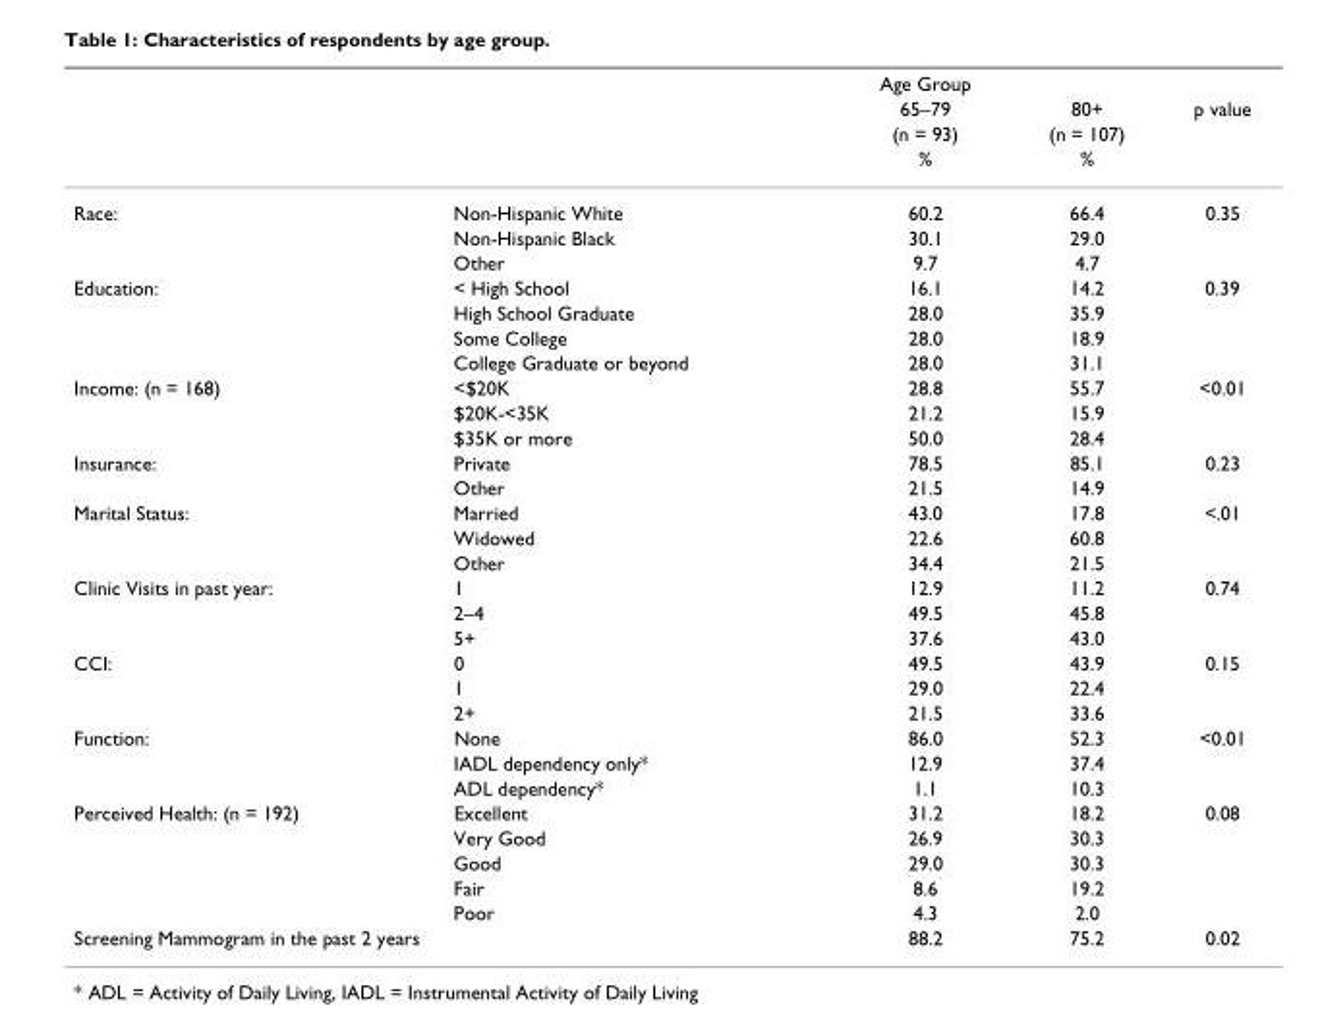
<table><thead><tr><td rowspan="4"></td><td rowspan="4"></td><td rowspan="4">Age Group 65–79 (n = 93) %</td><td rowspan="4">80+ (n = 107) %</td><td rowspan="4">p value</td></tr><tr></tr><tr></tr><tr></tr></thead><tbody><tr><td rowspan="3">Race:</td><td>Non-Hispanic White</td><td>60.2</td><td>66.4</td><td>0.35</td></tr><tr><td>Non-Hispanic Black</td><td>30.1</td><td>29.0</td><td></td></tr><tr><td>Other</td><td>9.7</td><td>4.7</td><td></td></tr><tr><td rowspan="4">Education:</td><td>&lt; High School</td><td>16.1</td><td>14.2</td><td>0.39</td></tr><tr><td>High School Graduate</td><td>28.0</td><td>35.9</td><td></td></tr><tr><td>Some College</td><td>28.0</td><td>18.9</td><td></td></tr><tr><td>College Graduate or beyond</td><td>28.0</td><td>31.1</td><td></td></tr><tr><td rowspan="3">Income: (n = 168)</td><td>&lt;$20K</td><td>28.8</td><td>55.7</td><td>&lt;0.01</td></tr><tr><td>$20K-&lt;35K</td><td>21.2</td><td>15.9</td><td></td></tr><tr><td>$35K or more</td><td>50.0</td><td>28.4</td><td></td></tr><tr><td rowspan="2">Insurance:</td><td>Private</td><td>78.5</td><td>85.1</td><td>0.23</td></tr><tr><td>Other</td><td>21.5</td><td>14.9</td><td></td></tr><tr><td rowspan="3">Marital Status:</td><td>Married</td><td>43.0</td><td>17.8</td><td>&lt;.01</td></tr><tr><td>Widowed</td><td>22.6</td><td>60.8</td><td></td></tr><tr><td>Other</td><td>34.4</td><td>21.5</td><td></td></tr><tr><td rowspan="3">Clinic Visits in past year:</td><td>1</td><td>12.9</td><td>11.2</td><td>0.74</td></tr><tr><td>2–4</td><td>49.5</td><td>45.8</td><td></td></tr><tr><td>5+</td><td>37.6</td><td>43.0</td><td></td></tr><tr><td rowspan="3">CCI:</td><td>0</td><td>49.5</td><td>43.9</td><td>0.15</td></tr><tr><td>1</td><td>29.0</td><td>22.4</td><td></td></tr><tr><td>2+</td><td>21.5</td><td>33.6</td><td></td></tr><tr><td rowspan="3">Function:</td><td>None</td><td>86.0</td><td>52.3</td><td>&lt;0.01</td></tr><tr><td>IADL dependency only*</td><td>12.9</td><td>37.4</td><td></td></tr><tr><td>ADL dependency*</td><td>1.1</td><td>10.3</td><td></td></tr><tr><td rowspan="5">Perceived Health: (n = 192)</td><td>Excellent</td><td>31.2</td><td>18.2</td><td>0.08</td></tr><tr><td>Very Good</td><td>26.9</td><td>30.3</td><td></td></tr><tr><td>Good</td><td>29.0</td><td>30.3</td><td></td></tr><tr><td>Fair</td><td>8.6</td><td>19.2</td><td></td></tr><tr><td>Poor</td><td>4.3</td><td>2.0</td><td></td></tr><tr><td colspan="2">Screening Mammogram in the past 2 years</td><td>88.2</td><td>75.2</td><td>0.02</td></tr></tbody></table>